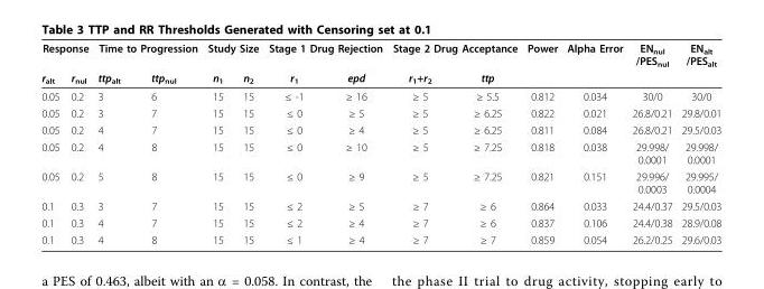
<table><thead><tr><td colspan="2">Response</td><td colspan="2">Time to Progression</td><td colspan="2">Study Size</td><td colspan="2">Stage 1 Drug Rejection</td><td colspan="2">Stage 2 Drug Acceptance</td><td rowspan="2">Power</td><td rowspan="2">Alpha Error</td><td rowspan="2">EN<sub>nul</sub> /PES<sub>nul</sub></td><td rowspan="2">EN<sub>alt</sub> /PES<sub>alt</sub></td></tr><tr><td>r<sub>alt</sub></td><td>r<sub>nul</sub></td><td>ttp<sub>alt</sub></td><td>ttp<sub>nul</sub></td><td>n<sub>1</sub></td><td>n<sub>2</sub></td><td>r<sub>1</sub></td><td>epd</td><td>r<sub>1</sub>+r<sub>2</sub></td><td>ttp</td></tr></thead><tbody><tr><td>0.05</td><td>0.2</td><td>3</td><td>6</td><td>15</td><td>15</td><td>≤ -1</td><td>≥ 16</td><td>≥ 5</td><td>≥ 5.5</td><td>0.812</td><td>0.034</td><td>30/0</td><td>30/0</td></tr><tr><td>0.05</td><td>0.2</td><td>3</td><td>7</td><td>15</td><td>15</td><td>≤ 0</td><td>≥ 5</td><td>≥ 5</td><td>≥ 6.25</td><td>0.822</td><td>0.021</td><td>26.8/0.21</td><td>29.8/0.01</td></tr><tr><td>0.05</td><td>0.2</td><td>4</td><td>7</td><td>15</td><td>15</td><td>≤ 0</td><td>≥ 4</td><td>≥ 5</td><td>≥ 6.25</td><td>0.811</td><td>0.084</td><td>26.8/0.21</td><td>29.5/0.03</td></tr><tr><td>0.05</td><td>0.2</td><td>4</td><td>8</td><td>15</td><td>15</td><td>≤ 0</td><td>≥ 10</td><td>≥ 5</td><td>≥ 7.25</td><td>0.818</td><td>0.038</td><td>29.998/ 0.0001</td><td>29.998/ 0.0001</td></tr><tr><td>0.05</td><td>0.2</td><td>5</td><td>8</td><td>15</td><td>15</td><td>≤ 0</td><td>≥ 9</td><td>≥ 5</td><td>≥ 7.25</td><td>0.821</td><td>0.151</td><td>29.996/ 0.0003</td><td>29.995/ 0.0004</td></tr><tr><td>0.1</td><td>0.3</td><td>3</td><td>7</td><td>15</td><td>15</td><td>≤ 2</td><td>≥ 5</td><td>≥ 7</td><td>≥ 6</td><td>0.864</td><td>0.033</td><td>24.4/0.37</td><td>29.5/0.03</td></tr><tr><td>0.1</td><td>0.3</td><td>4</td><td>7</td><td>15</td><td>15</td><td>≤ 2</td><td>≥ 4</td><td>≥ 7</td><td>≥ 6</td><td>0.837</td><td>0.106</td><td>24.4/0.38</td><td>28.9/0.08</td></tr><tr><td>0.1</td><td>0.3</td><td>4</td><td>8</td><td>15</td><td>15</td><td>≤ 1</td><td>≥ 4</td><td>≥ 7</td><td>≥ 7</td><td>0.859</td><td>0.054</td><td>26.2/0.25</td><td>29.6/0.03</td></tr></tbody></table>